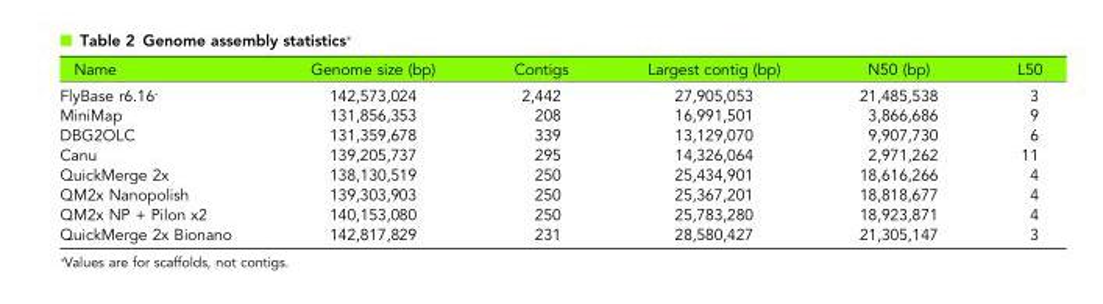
<table><thead><tr><td>Name</td><td>Genome size (bp)</td><td>Contigs</td><td>Largest contig (bp)</td><td>N50 (bp)</td><td>L50</td></tr></thead><tbody><tr><td>FlyBase r6.16*</td><td>142,573,024</td><td>2,442</td><td>27,905,053</td><td>21,485,538</td><td>3</td></tr><tr><td>MiniMap</td><td>131,856,353</td><td>208</td><td>16,991,501</td><td>3,866,686</td><td>9</td></tr><tr><td>DBG2OLC</td><td>131,359,678</td><td>339</td><td>13,129,070</td><td>9,907,730</td><td>6</td></tr><tr><td>Canu</td><td>139,205,737</td><td>295</td><td>14,326,064</td><td>2,971,262</td><td>11</td></tr><tr><td>QuickMerge 2x</td><td>138,130,519</td><td>250</td><td>25,434,901</td><td>18,616,266</td><td>4</td></tr><tr><td>QM2x Nanopolish</td><td>139,303,903</td><td>250</td><td>25,367,201</td><td>18,818,677</td><td>4</td></tr><tr><td>QM2x NP + Pilon x2</td><td>140,153,080</td><td>250</td><td>25,783,280</td><td>18,923,871</td><td>4</td></tr><tr><td>QuickMerge 2x Bionano</td><td>142,817,829</td><td>231</td><td>28,580,427</td><td>21,305,147</td><td>3</td></tr></tbody></table>